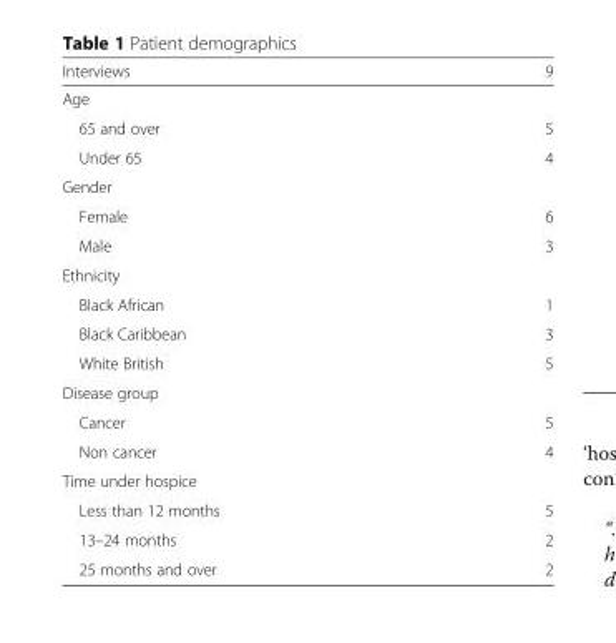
<table><thead><tr><td>Interviews</td><td>9</td></tr></thead><tbody><tr><td colspan="2">Age</td></tr><tr><td>65 and over</td><td>5</td></tr><tr><td>Under 65</td><td>4</td></tr><tr><td colspan="2">Gender</td></tr><tr><td>Female</td><td>6</td></tr><tr><td>Male</td><td>3</td></tr><tr><td colspan="2">Ethnicity</td></tr><tr><td>Black African</td><td>1</td></tr><tr><td>Black Caribbean</td><td>3</td></tr><tr><td>White British</td><td>5</td></tr><tr><td colspan="2">Disease group</td></tr><tr><td>Cancer</td><td>5</td></tr><tr><td>Non cancer</td><td>4</td></tr><tr><td colspan="2">Time under hospice</td></tr><tr><td>Less than 12 months</td><td>5</td></tr><tr><td>13–24 months</td><td>2</td></tr><tr><td>25 months and over</td><td>2</td></tr></tbody></table>